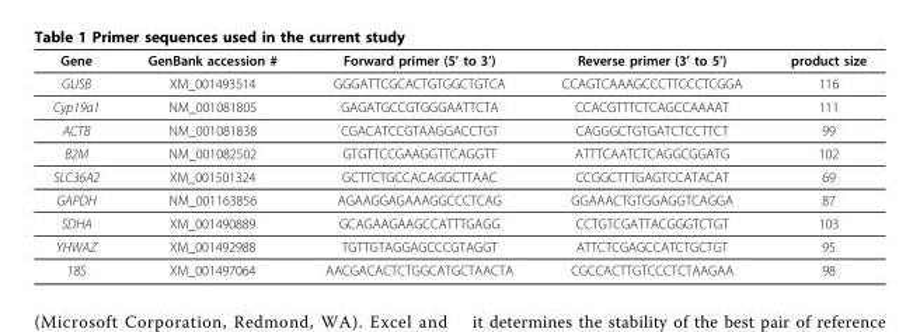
<table><thead><tr><td>Gene</td><td>GenBank accession #</td><td>Forward primer (5’ to 3’)</td><td>Reverse primer (3’ to 5’)</td><td>product size</td></tr></thead><tbody><tr><td>GUSB</td><td>XM_001493514</td><td>GGGATTCGCACTGTGGCTGTCA</td><td>CCAGTCAAAGCCCTTCCCTCGGA</td><td>116</td></tr><tr><td>Cyp19a1</td><td>NM_001081805</td><td>GAGATGCCGTGGGAATTCTA</td><td>CCACGTTTCTCAGCCAAAAT</td><td>111</td></tr><tr><td>ACTB</td><td>NM_001081838</td><td>CGACATCCGTAAGGACCTGT</td><td>CAGGGCTGTGATCTCCTTCT</td><td>99</td></tr><tr><td>B2M</td><td>NM_001082502</td><td>GTGTTCCGAAGGTTCAGGTT</td><td>ATTTCAATCTCAGGCGGATG</td><td>102</td></tr><tr><td>SLC36A2</td><td>XM_001501324</td><td>GCTTCTGCCACAGGCTTAAC</td><td>CCGGCTTTGAGTCCATACAT</td><td>69</td></tr><tr><td>GAPDH</td><td>NM_001163856</td><td>AGAAGGAGAAAGGCCCTCAG</td><td>GGAAACTGTGGAGGTCAGGA</td><td>87</td></tr><tr><td>SDHA</td><td>XM_001490889</td><td>GCAGAAGAAGCCATTTGAGG</td><td>CCTGTCGATTACGGGTCTGT</td><td>103</td></tr><tr><td>YHWAZ</td><td>XM_001492988</td><td>TGTTGTAGGAGCCCGTAGGT</td><td>ATTCTCGAGCCATCTGCTGT</td><td>95</td></tr><tr><td>18S</td><td>XM_001497064</td><td>AACGACACTCTGGCATGCTAACTA</td><td>CGCCACTTGTCCCTCTAAGAA</td><td>98</td></tr></tbody></table>